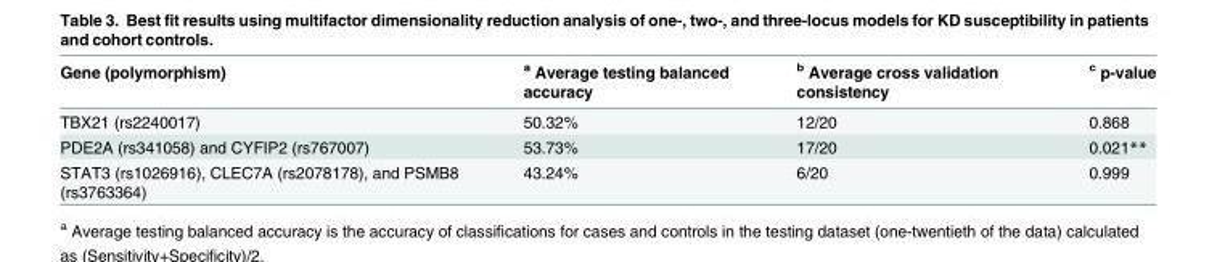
<table><thead><tr><td>Gene (polymorphism)</td><td><sup>a</sup> Average testing balanced accuracy</td><td><sup>b</sup> Average cross validation consistency</td><td><sup>c</sup> p-value</td></tr></thead><tbody><tr><td>TBX21 (rs2240017)</td><td>50.32%</td><td>12/20</td><td>0.868</td></tr><tr><td>PDE2A (rs341058) and CYFIP2 (rs767007)</td><td>53.73%</td><td>17/20</td><td>0.021**</td></tr><tr><td>STAT3 (rs1026916), CLEC7A (rs2078178), and PSMB8 (rs3763364)</td><td>43.24%</td><td>6/20</td><td>0.999</td></tr></tbody></table>